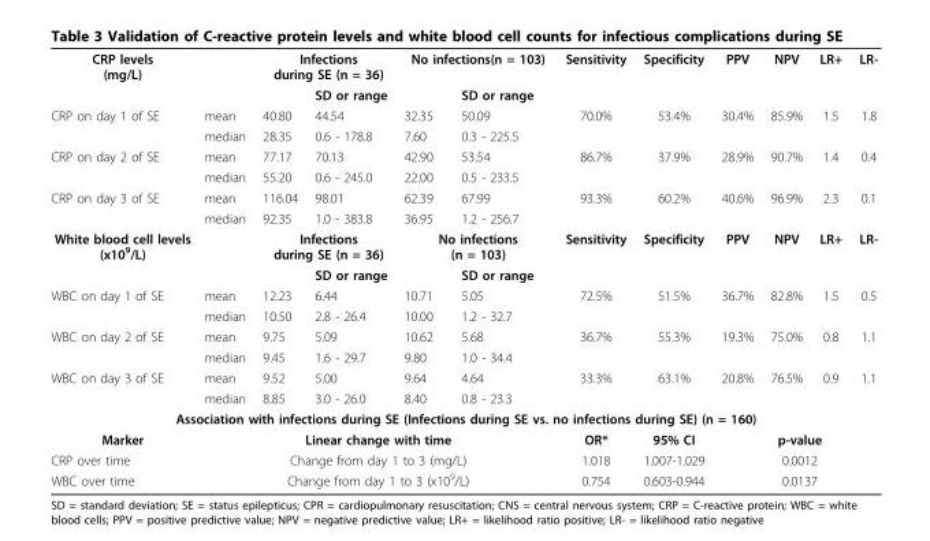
<table><tbody><tr><td rowspan="2">CRP levels (mg/L)</td><td></td><td colspan="2">Infections during SE (n = 36)</td><td colspan="2">No infections(n = 103)</td><td>Sensitivity</td><td>Specificity</td><td>PPV</td><td>NPV</td><td>LR+</td><td>LR-</td></tr><tr><td></td><td></td><td>SD or range</td><td></td><td>SD or range</td><td></td><td></td><td></td><td></td><td></td><td></td></tr><tr><td rowspan="2">CRP on day 1 of SE</td><td>mean</td><td>40.80</td><td>44.54</td><td>32.35</td><td>50.09</td><td>70.0%</td><td>53.4%</td><td>30.4%</td><td>85.9%</td><td>1.5</td><td>1.8</td></tr><tr><td>median</td><td>28.35</td><td>0.6 - 178.8</td><td>7.60</td><td>0.3 - 225.5</td><td></td><td></td><td></td><td></td><td></td><td></td></tr><tr><td rowspan="2">CRP on day 2 of SE</td><td>mean</td><td>77.17</td><td>70.13</td><td>42.90</td><td>53.54</td><td>86.7%</td><td>37.9%</td><td>28.9%</td><td>90.7%</td><td>1.4</td><td>0.4</td></tr><tr><td>median</td><td>55.20</td><td>0.6 - 245.0</td><td>22.00</td><td>0.5 - 233.5</td><td></td><td></td><td></td><td></td><td></td><td></td></tr><tr><td rowspan="2">CRP on day 3 of SE</td><td>mean</td><td>116.04</td><td>98.01</td><td>62.39</td><td>67.99</td><td>93.3%</td><td>60.2%</td><td>40.6%</td><td>96.9%</td><td>2.3</td><td>0.1</td></tr><tr><td>median</td><td>92.35</td><td>1.0 - 383.8</td><td>36.95</td><td>1.2 - 256.7</td><td></td><td></td><td></td><td></td><td></td><td></td></tr><tr><td rowspan="2">White blood cell levels (x10<sup>9</sup>/L)</td><td></td><td colspan="2">Infections during SE (n = 36)</td><td colspan="2">No infections (n = 103)</td><td>Sensitivity</td><td>Specificity</td><td>PPV</td><td>NPV</td><td>LR+</td><td>LR-</td></tr><tr><td></td><td></td><td>SD or range</td><td></td><td>SD or range</td><td></td><td></td><td></td><td></td><td></td><td></td></tr><tr><td rowspan="2">WBC on day 1 of SE</td><td>mean</td><td>12.23</td><td>6.44</td><td>10.71</td><td>5.05</td><td>72.5%</td><td>51.5%</td><td>36.7%</td><td>82.8%</td><td>1.5</td><td>0.5</td></tr><tr><td>median</td><td>10.50</td><td>2.8 - 26.4</td><td>10.00</td><td>1.2 - 32.7</td><td></td><td></td><td></td><td></td><td></td><td></td></tr><tr><td rowspan="2">WBC on day 2 of SE</td><td>mean</td><td>9.75</td><td>5.09</td><td>10.62</td><td>5.68</td><td>36.7%</td><td>55.3%</td><td>19.3%</td><td>75.0%</td><td>0.8</td><td>1.1</td></tr><tr><td>median</td><td>9.45</td><td>1.6 - 29.7</td><td>9.80</td><td>1.0 - 34.4</td><td></td><td></td><td></td><td></td><td></td><td></td></tr><tr><td rowspan="2">WBC on day 3 of SE</td><td>mean</td><td>9.52</td><td>5.00</td><td>9.64</td><td>4.64</td><td>33.3%</td><td>63.1%</td><td>20.8%</td><td>76.5%</td><td>0.9</td><td>1.1</td></tr><tr><td>median</td><td>8.85</td><td>3.0 - 26.0</td><td>8.40</td><td>0.8 - 23.3</td><td></td><td></td><td></td><td></td><td></td><td></td></tr><tr><td colspan="12">Association with infections during SE (Infections during SE vs. no infections during SE) (n = 160)</td></tr><tr><td>Marker</td><td colspan="5">Linear change with time</td><td>OR*</td><td>95% CI</td><td colspan="4">p-value</td></tr><tr><td>CRP over time</td><td colspan="5">Change from day 1 to 3 (mg/L)</td><td>1.018</td><td>1.007-1.029</td><td colspan="4">0.0012</td></tr><tr><td>WBC over time</td><td colspan="5">Change from day 1 to 3 (x10<sup>9</sup>/L)</td><td>0.754</td><td>0.603-0.944</td><td colspan="4">0.0137</td></tr></tbody></table>